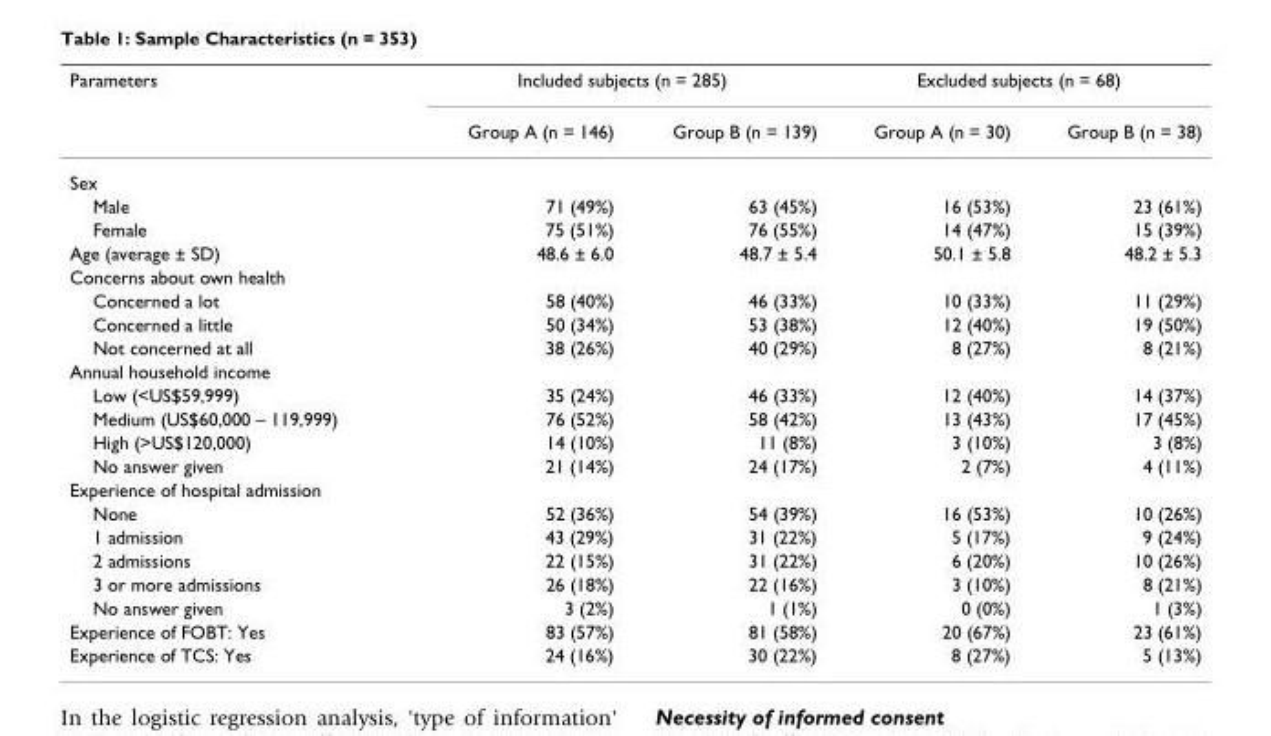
<table><thead><tr><td rowspan="2">Parameters</td><td colspan="2">Included subjects (n = 285)</td><td colspan="2">Excluded subjects (n = 68)</td></tr><tr><td>Group A (n = 146)</td><td>Group B (n = 139)</td><td>Group A (n = 30)</td><td>Group B (n = 38)</td></tr></thead><tbody><tr><td colspan="5">Sex</td></tr><tr><td>Male</td><td>71 (49%)</td><td>63 (45%)</td><td>16 (53%)</td><td>23 (61%)</td></tr><tr><td>Female</td><td>75 (51%)</td><td>76 (55%)</td><td>14 (47%)</td><td>15 (39%)</td></tr><tr><td>Age (average ± SD)</td><td>48.6 ± 6.0</td><td>48.7 ± 5.4</td><td>50.1 ± 5.8</td><td>48.2 ± 5.3</td></tr><tr><td colspan="5">Concerns about own health</td></tr><tr><td>Concerned a lot</td><td>58 (40%)</td><td>46 (33%)</td><td>10 (33%)</td><td>11 (29%)</td></tr><tr><td>Concerned a little</td><td>50 (34%)</td><td>53 (38%)</td><td>12 (40%)</td><td>19 (50%)</td></tr><tr><td>Not concerned at all</td><td>38 (26%)</td><td>40 (29%)</td><td>8 (27%)</td><td>8 (21%)</td></tr><tr><td colspan="5">Annual household income</td></tr><tr><td>Low (&lt;US$59,999)</td><td>35 (24%)</td><td>46 (33%)</td><td>12 (40%)</td><td>14 (37%)</td></tr><tr><td>Medium (US$60,000 – 119,999)</td><td>76 (52%)</td><td>58 (42%)</td><td>13 (43%)</td><td>17 (45%)</td></tr><tr><td>High (&gt;US$120,000)</td><td>14 (10%)</td><td>11 (8%)</td><td>3 (10%)</td><td>3 (8%)</td></tr><tr><td>No answer given</td><td>21 (14%)</td><td>24 (17%)</td><td>2 (7%)</td><td>4 (11%)</td></tr><tr><td colspan="5">Experience of hospital admission</td></tr><tr><td>None</td><td>52 (36%)</td><td>54 (39%)</td><td>16 (53%)</td><td>10 (26%)</td></tr><tr><td>1 admission</td><td>43 (29%)</td><td>31 (22%)</td><td>5 (17%)</td><td>9 (24%)</td></tr><tr><td>2 admissions</td><td>22 (15%)</td><td>31 (22%)</td><td>6 (20%)</td><td>10 (26%)</td></tr><tr><td>3 or more admissions</td><td>26 (18%)</td><td>22 (16%)</td><td>3 (10%)</td><td>8 (21%)</td></tr><tr><td>No answer given</td><td>3 (2%)</td><td>1 (1%)</td><td>0 (0%)</td><td>1 (3%)</td></tr><tr><td>Experience of FOBT: Yes</td><td>83 (57%)</td><td>81 (58%)</td><td>20 (67%)</td><td>23 (61%)</td></tr><tr><td>Experience of TCS: Yes</td><td>24 (16%)</td><td>30 (22%)</td><td>8 (27%)</td><td>5 (13%)</td></tr></tbody></table>